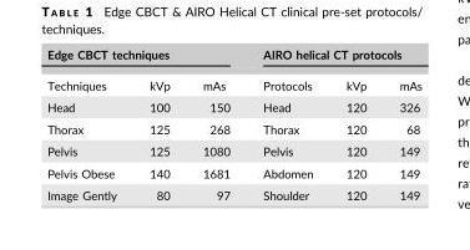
<table><thead><tr><td colspan="3">Edge CBCT techniques</td><td colspan="3">AIRO helical CT protocols</td></tr><tr><td>Techniques</td><td>kVp</td><td>mAs</td><td>Protocols</td><td>kVp</td><td>mAs</td></tr></thead><tbody><tr><td>Head</td><td>100</td><td>150</td><td>Head</td><td>120</td><td>326</td></tr><tr><td>Thorax</td><td>125</td><td>268</td><td>Thorax</td><td>120</td><td>68</td></tr><tr><td>Pelvis</td><td>125</td><td>1080</td><td>Pelvis</td><td>120</td><td>149</td></tr><tr><td>Pelvis Obese</td><td>140</td><td>1681</td><td>Abdomen</td><td>120</td><td>149</td></tr><tr><td>Image Gently</td><td>80</td><td>97</td><td>Shoulder</td><td>120</td><td>149</td></tr></tbody></table>